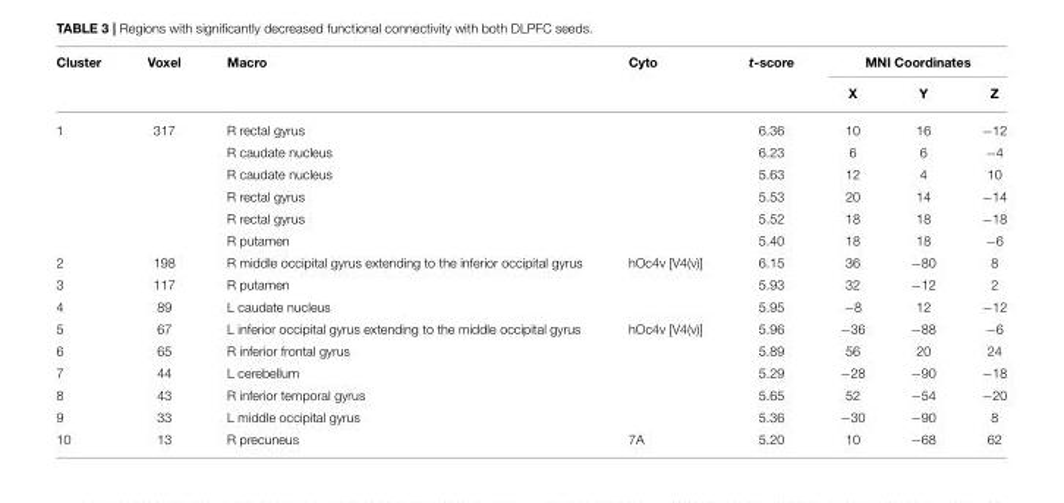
<table><thead><tr><td rowspan="2">Cluster</td><td rowspan="2">Voxel</td><td rowspan="2">Macro</td><td rowspan="2">Cyto</td><td rowspan="2">t-score</td><td colspan="3">MNI Coordinates</td></tr><tr><td>X</td><td>Y</td><td>Z</td></tr></thead><tbody><tr><td rowspan="6">1</td><td>317</td><td>R rectal gyrus</td><td></td><td>6.36</td><td>10</td><td>16</td><td>−12</td></tr><tr><td></td><td>R caudate nucleus</td><td></td><td>6.23</td><td>6</td><td>6</td><td>−4</td></tr><tr><td></td><td>R caudate nucleus</td><td></td><td>5.63</td><td>12</td><td>4</td><td>10</td></tr><tr><td></td><td>R rectal gyrus</td><td></td><td>5.53</td><td>20</td><td>14</td><td>−14</td></tr><tr><td></td><td>R rectal gyrus</td><td></td><td>5.52</td><td>18</td><td>18</td><td>−18</td></tr><tr><td></td><td>R putamen</td><td></td><td>5.40</td><td>18</td><td>18</td><td>−6</td></tr><tr><td>2</td><td>198</td><td>R middle occipital gyrus extending to the inferior occipital gyrus</td><td>hOc4v [V4(v)]</td><td>6.15</td><td>36</td><td>−80</td><td>8</td></tr><tr><td>3</td><td>117</td><td>R putamen</td><td></td><td>5.93</td><td>32</td><td>−12</td><td>2</td></tr><tr><td>4</td><td>89</td><td>L caudate nucleus</td><td></td><td>5.95</td><td>−8</td><td>12</td><td>−12</td></tr><tr><td>5</td><td>67</td><td>L inferior occipital gyrus extending to the middle occipital gyrus</td><td>hOc4v [V4(v)]</td><td>5.96</td><td>−36</td><td>−88</td><td>−6</td></tr><tr><td>6</td><td>65</td><td>R inferior frontal gyrus</td><td></td><td>5.89</td><td>56</td><td>20</td><td>24</td></tr><tr><td>7</td><td>44</td><td>L cerebellum</td><td></td><td>5.29</td><td>−28</td><td>−90</td><td>−18</td></tr><tr><td>8</td><td>43</td><td>R inferior temporal gyrus</td><td></td><td>5.65</td><td>52</td><td>−54</td><td>−20</td></tr><tr><td>9</td><td>33</td><td>L middle occipital gyrus</td><td></td><td>5.36</td><td>−30</td><td>−90</td><td>8</td></tr><tr><td>10</td><td>13</td><td>R precuneus</td><td>7A</td><td>5.20</td><td>10</td><td>−68</td><td>62</td></tr></tbody></table>